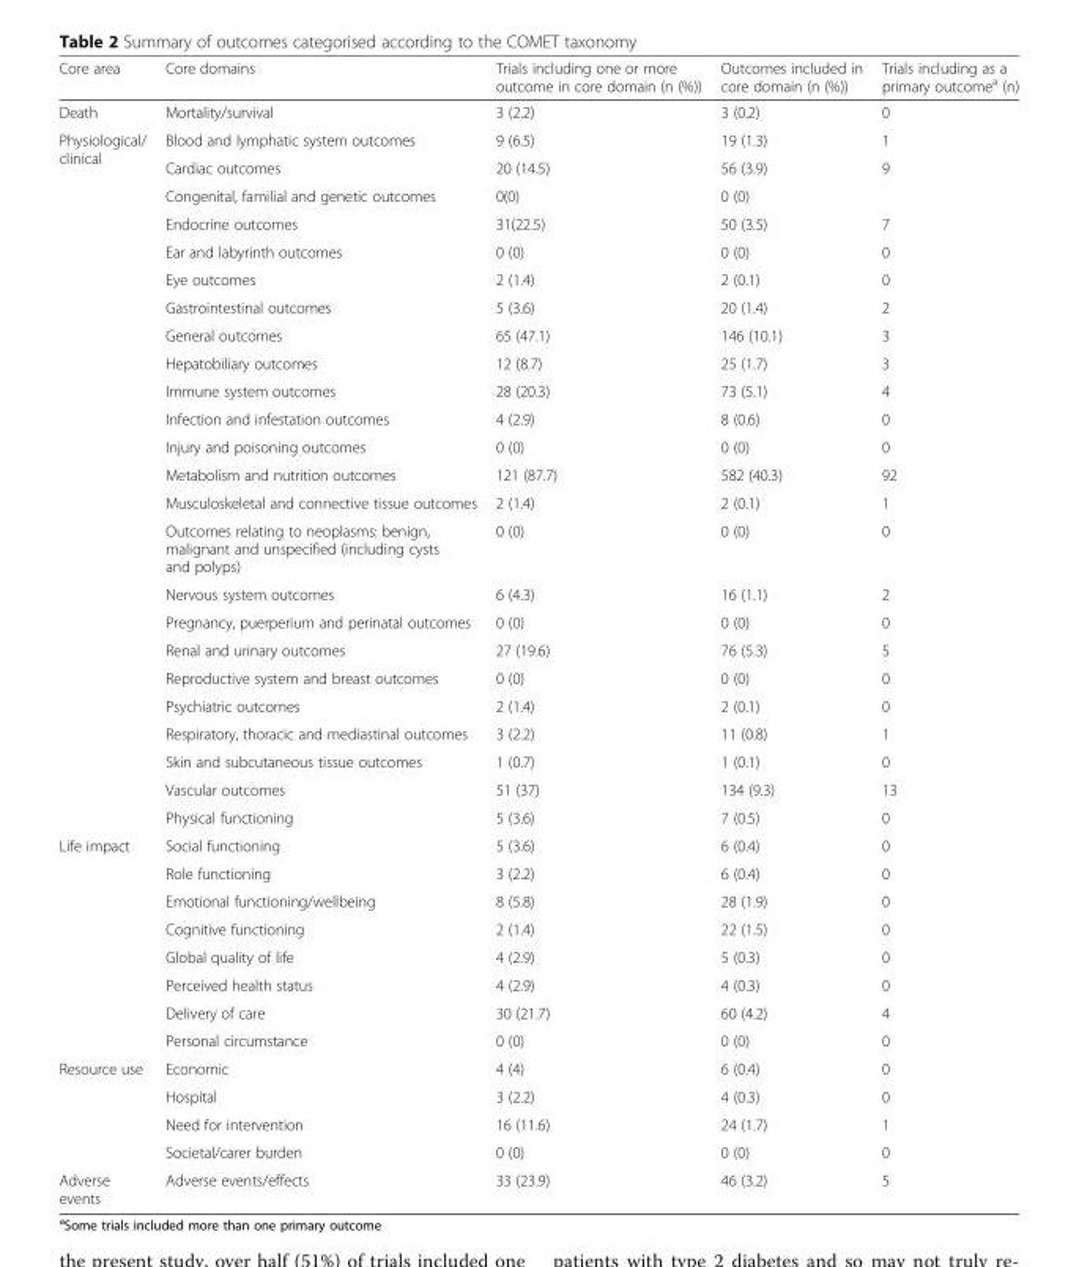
<table><thead><tr><td>Core area</td><td>Core domains</td><td>Trials including one or more outcome in core domain (n (%))</td><td>Outcomes included in core domain (n (%))</td><td>Trials including as a primary outcome<sup>a</sup> (n)</td></tr></thead><tbody><tr><td>Death</td><td>Mortality/survival</td><td>3 (2.2)</td><td>3 (0.2)</td><td>0</td></tr><tr><td rowspan="24">Physiological/ clinical</td><td>Blood and lymphatic system outcomes</td><td>9 (6.5)</td><td>19 (1.3)</td><td>1</td></tr><tr><td>Cardiac outcomes</td><td>20 (14.5)</td><td>56 (3.9)</td><td>9</td></tr><tr><td>Congenital, familial and genetic outcomes</td><td>0(0)</td><td>0 (0)</td><td></td></tr><tr><td>Endocrine outcomes</td><td>31(22.5)</td><td>50 (3.5)</td><td>7</td></tr><tr><td>Ear and labyrinth outcomes</td><td>0 (0)</td><td>0 (0)</td><td>0</td></tr><tr><td>Eye outcomes</td><td>2 (1.4)</td><td>2 (0.1)</td><td>0</td></tr><tr><td>Gastrointestinal outcomes</td><td>5 (3.6)</td><td>20 (1.4)</td><td>2</td></tr><tr><td>General outcomes</td><td>65 (47.1)</td><td>146 (10.1)</td><td>3</td></tr><tr><td>Hepatobiliary outcomes</td><td>12 (8.7)</td><td>25 (1.7)</td><td>3</td></tr><tr><td>Immune system outcomes</td><td>28 (20.3)</td><td>73 (5.1)</td><td>4</td></tr><tr><td>Infection and infestation outcomes</td><td>4 (2.9)</td><td>8 (0.6)</td><td>0</td></tr><tr><td>Injury and poisoning outcomes</td><td>0 (0)</td><td>0 (0)</td><td>0</td></tr><tr><td>Metabolism and nutrition outcomes</td><td>121 (87.7)</td><td>582 (40.3)</td><td>92</td></tr><tr><td>Musculoskeletal and connective tissue outcomes</td><td>2 (1.4)</td><td>2 (0.1)</td><td>1</td></tr><tr><td>Outcomes relating to neoplasms: benign, malignant and unspecified (including cysts and polyps)</td><td>0 (0)</td><td>0 (0)</td><td>0</td></tr><tr><td>Nervous system outcomes</td><td>6 (4.3)</td><td>16 (1.1)</td><td>2</td></tr><tr><td>Pregnancy, puerperium and perinatal outcomes</td><td>0 (0)</td><td>0 (0)</td><td>0</td></tr><tr><td>Renal and urinary outcomes</td><td>27 (19.6)</td><td>76 (5.3)</td><td>5</td></tr><tr><td>Reproductive system and breast outcomes</td><td>0 (0)</td><td>0 (0)</td><td>0</td></tr><tr><td>Psychiatric outcomes</td><td>2 (1.4)</td><td>2 (0.1)</td><td>0</td></tr><tr><td>Respiratory, thoracic and mediastinal outcomes</td><td>3 (2.2)</td><td>11 (0.8)</td><td>1</td></tr><tr><td>Skin and subcutaneous tissue outcomes</td><td>1 (0.7)</td><td>1 (0.1)</td><td>0</td></tr><tr><td>Vascular outcomes</td><td>51 (37)</td><td>134 (9.3)</td><td>13</td></tr><tr><td>Physical functioning</td><td>5 (3.6)</td><td>7 (0.5)</td><td>0</td></tr><tr><td rowspan="8">Life impact</td><td>Social functioning</td><td>5 (3.6)</td><td>6 (0.4)</td><td>0</td></tr><tr><td>Role functioning</td><td>3 (2.2)</td><td>6 (0.4)</td><td>0</td></tr><tr><td>Emotional functioning/wellbeing</td><td>8 (5.8)</td><td>28 (1.9)</td><td>0</td></tr><tr><td>Cognitive functioning</td><td>2 (1.4)</td><td>22 (1.5)</td><td>0</td></tr><tr><td>Global quality of life</td><td>4 (2.9)</td><td>5 (0.3)</td><td>0</td></tr><tr><td>Perceived health status</td><td>4 (2.9)</td><td>4 (0.3)</td><td>0</td></tr><tr><td>Delivery of care</td><td>30 (21.7)</td><td>60 (4.2)</td><td>4</td></tr><tr><td>Personal circumstance</td><td>0 (0)</td><td>0 (0)</td><td>0</td></tr><tr><td rowspan="4">Resource use</td><td>Economic</td><td>4 (4)</td><td>6 (0.4)</td><td>0</td></tr><tr><td>Hospital</td><td>3 (2.2)</td><td>4 (0.3)</td><td>0</td></tr><tr><td>Need for intervention</td><td>16 (11.6)</td><td>24 (1.7)</td><td>1</td></tr><tr><td>Societal/carer burden</td><td>0 (0)</td><td>0 (0)</td><td>0</td></tr><tr><td>Adverse events</td><td>Adverse events/effects</td><td>33 (23.9)</td><td>46 (3.2)</td><td>5</td></tr></tbody></table>